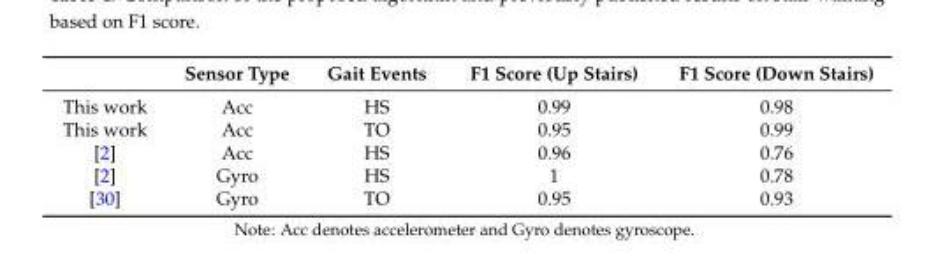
<table><thead><tr><td></td><td>Sensor Type</td><td>Gait Events</td><td>F1 Score (Up Stairs)</td><td>F1 Score (Down Stairs)</td></tr></thead><tbody><tr><td>This work</td><td>Acc</td><td>HS</td><td>0.99</td><td>0.98</td></tr><tr><td>This work</td><td>Acc</td><td>TO</td><td>0.95</td><td>0.99</td></tr><tr><td>[2]</td><td>Acc</td><td>HS</td><td>0.96</td><td>0.76</td></tr><tr><td>[2]</td><td>Gyro</td><td>HS</td><td>1</td><td>0.78</td></tr><tr><td>[30]</td><td>Gyro</td><td>TO</td><td>0.95</td><td>0.93</td></tr></tbody></table>